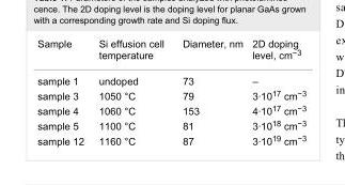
<table><tbody><tr><td>Sample</td><td>Si effusion cell temperature</td><td>Diameter, nm</td><td>2D doping level, cm<sup>−3</sup></td></tr><tr><td>sample 1</td><td>undoped</td><td>73</td><td>–</td></tr><tr><td>sample 3</td><td>1050 °C</td><td>79</td><td>3·10<sup>17</sup> cm<sup>−3</sup></td></tr><tr><td>sample 4</td><td>1060 °C</td><td>153</td><td>4·10<sup>17</sup> cm<sup>−3</sup></td></tr><tr><td>sample 5</td><td>1100 °C</td><td>81</td><td>3·10<sup>18</sup> cm<sup>−3</sup></td></tr><tr><td>sample 12</td><td>1160 °C</td><td>87</td><td>3·10<sup>19</sup> cm<sup>−3</sup></td></tr></tbody></table>